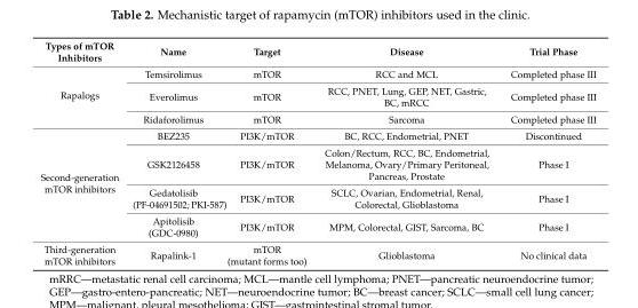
<table><thead><tr><td>Types of mTOR Inhibitors</td><td>Name</td><td>Target</td><td>Disease</td><td>Trial Phase</td></tr></thead><tbody><tr><td rowspan="3">Rapalogs</td><td>Temsirolimus</td><td>mTOR</td><td>RCC and MCL</td><td>Completed phase III</td></tr><tr><td>Everolimus</td><td>mTOR</td><td>RCC, PNET, Lung, GEP, NET, Gastric, BC, mRCC</td><td>Completed phase III</td></tr><tr><td>Ridaforolimus</td><td>mTOR</td><td>Sarcoma</td><td>Completed phase III</td></tr><tr><td rowspan="4">Second-generation mTOR inhibitors</td><td>BEZ235</td><td>PI3K/mTOR</td><td>BC, RCC, Endometrial, PNET</td><td>Discontinued</td></tr><tr><td>GSK2126458</td><td>PI3K/mTOR</td><td>Colon/Rectum, RCC, BC, Endometrial, Melanoma, Ovary/Primary Peritoneal, Pancreas, Prostate</td><td>Phase I</td></tr><tr><td>Gedatolisib (PF-04691502; PKI-587)</td><td>PI3K/mTOR</td><td>SCLC, Ovarian, Endometrial, Renal, Colorectal, Glioblastoma</td><td>Phase I</td></tr><tr><td>Apitolisib (GDC-0980)</td><td>PI3K/mTOR</td><td>MPM, Colorectal, GIST, Sarcoma, BC</td><td>Phase I</td></tr><tr><td>Third-generation mTOR inhibitors</td><td>Rapalink-1</td><td>mTOR (mutant forms too)</td><td>Glioblastoma</td><td>No clinical data</td></tr></tbody></table>